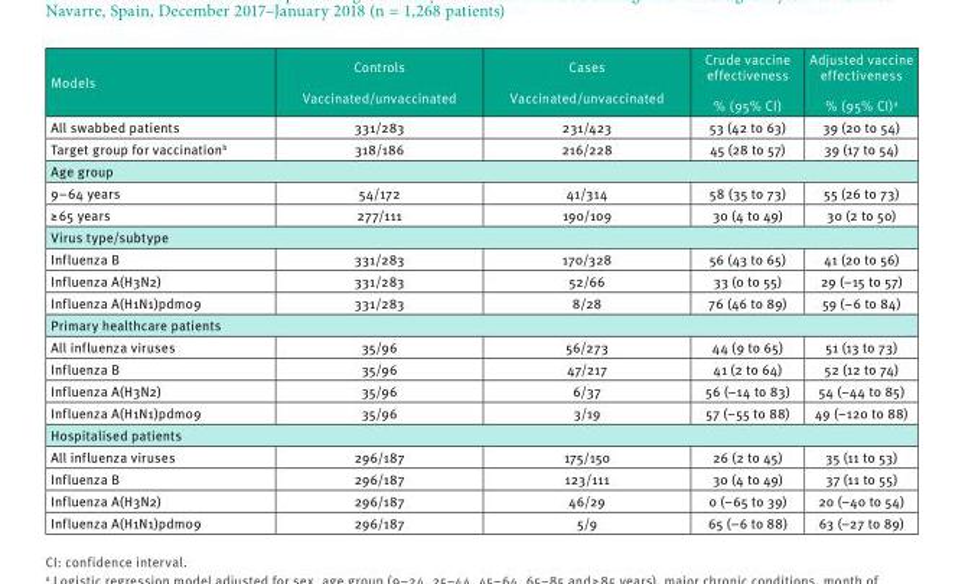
<table><thead><tr><td>Models</td><td>Controls Vaccinated/unvaccinated</td><td>Cases Vaccinated/unvaccinated</td><td>Crude vaccine effectiveness % (95% CI)</td><td>Adjusted vaccine effectiveness % (95% CI)<sup>a</sup></td></tr></thead><tbody><tr><td>All swabbed patients</td><td>331/283</td><td>231/423</td><td>53 (42 to 63)</td><td>39 (20 to 54)</td></tr><tr><td>Target group for vaccination<sup>b</sup></td><td>318/186</td><td>216/228</td><td>45 (28 to 57)</td><td>39 (17 to 54)</td></tr><tr><td colspan="5">Age group</td></tr><tr><td>9–64 years</td><td>54/172</td><td>41/314</td><td>58 (35 to 73)</td><td>55 (26 to 73)</td></tr><tr><td>≥ 65 years</td><td>277/111</td><td>190/109</td><td>30 (4 to 49)</td><td>30 (2 to 50)</td></tr><tr><td colspan="5">Virus type/subtype</td></tr><tr><td>Influenza B</td><td>331/283</td><td>170/328</td><td>56 (43 to 65)</td><td>41 (20 to 56)</td></tr><tr><td>Influenza A(H3N2)</td><td>331/283</td><td>52/66</td><td>33 (0 to 55)</td><td>29 (–15 to 57)</td></tr><tr><td>Influenza A(H1N1)pdm09</td><td>331/283</td><td>8/28</td><td>76 (46 to 89)</td><td>59 (–6 to 84)</td></tr><tr><td colspan="5">Primary healthcare patients</td></tr><tr><td>All influenza viruses</td><td>35/96</td><td>56/273</td><td>44 (9 to 65)</td><td>51 (13 to 73)</td></tr><tr><td>Influenza B</td><td>35/96</td><td>47/217</td><td>41 (2 to 64)</td><td>52 (12 to 74)</td></tr><tr><td>Influenza A(H3N2)</td><td>35/96</td><td>6/37</td><td>56 (–14 to 83)</td><td>54 (–44 to 85)</td></tr><tr><td>Influenza A(H1N1)pdm09</td><td>35/96</td><td>3/19</td><td>57 (–55 to 88)</td><td>49 (–120 to 88)</td></tr><tr><td colspan="5">Hospitalised patients</td></tr><tr><td>All influenza viruses</td><td>296/187</td><td>175/150</td><td>26 (2 to 45)</td><td>35 (11 to 53)</td></tr><tr><td>Influenza B</td><td>296/187</td><td>123/111</td><td>30 (4 to 49)</td><td>37 (11 to 55)</td></tr><tr><td>Influenza A(H3N2)</td><td>296/187</td><td>46/29</td><td>0 (–65 to 39)</td><td>20 (–40 to 54)</td></tr><tr><td>Influenza A(H1N1)pdm09</td><td>296/187</td><td>5/9</td><td>65 (–6 to 88)</td><td>63 (–27 to 89)</td></tr></tbody></table>